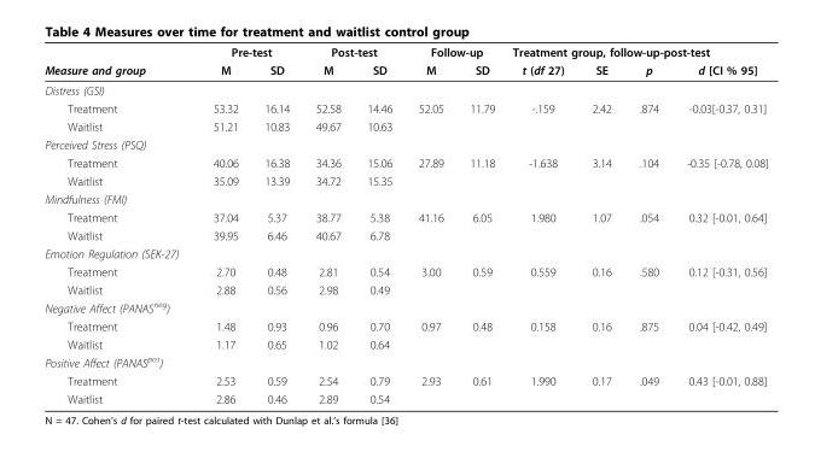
<table><thead><tr><td rowspan="2">Measure and group</td><td colspan="2">Pre-test</td><td colspan="2">Post-test</td><td colspan="2">Follow-up</td><td colspan="4">Treatment group, follow-up-post-test</td></tr><tr><td>M</td><td>SD</td><td>M</td><td>SD</td><td>M</td><td>SD</td><td>t (df 27)</td><td>SE</td><td>p</td><td>d [CI % 95]</td></tr></thead><tbody><tr><td colspan="11">Distress (GSI)</td></tr><tr><td>Treatment</td><td>53.32</td><td>16.14</td><td>52.58</td><td>14.46</td><td>52.05</td><td>11.79</td><td>-.159</td><td>2.42</td><td>.874</td><td>-0.03[-0.37, 0.31]</td></tr><tr><td>Waitlist</td><td>51.21</td><td>10.83</td><td>49.67</td><td>10.63</td><td></td><td></td><td></td><td></td><td></td><td></td></tr><tr><td colspan="11">Perceived Stress (PSQ)</td></tr><tr><td>Treatment</td><td>40.06</td><td>16.38</td><td>34.36</td><td>15.06</td><td>27.89</td><td>11.18</td><td>-1.638</td><td>3.14</td><td>.104</td><td>-0.35 [-0.78, 0.08]</td></tr><tr><td>Waitlist</td><td>35.09</td><td>13.39</td><td>34.72</td><td>15.35</td><td></td><td></td><td></td><td></td><td></td><td></td></tr><tr><td colspan="11">Mindfulness (FMI)</td></tr><tr><td>Treatment</td><td>37.04</td><td>5.37</td><td>38.77</td><td>5.38</td><td>41.16</td><td>6.05</td><td>1.980</td><td>1.07</td><td>.054</td><td>0.32 [-0.01, 0.64]</td></tr><tr><td>Waitlist</td><td>39.95</td><td>6.46</td><td>40.67</td><td>6.78</td><td></td><td></td><td></td><td></td><td></td><td></td></tr><tr><td colspan="11">Emotion Regulation (SEK-27)</td></tr><tr><td>Treatment</td><td>2.70</td><td>0.48</td><td>2.81</td><td>0.54</td><td>3.00</td><td>0.59</td><td>0.559</td><td>0.16</td><td>.580</td><td>0.12 [-0.31, 0.56]</td></tr><tr><td>Waitlist</td><td>2.88</td><td>0.56</td><td>2.98</td><td>0.49</td><td></td><td></td><td></td><td></td><td></td><td></td></tr><tr><td colspan="11">Negative Affect (PANAS<sup>neg</sup>)</td></tr><tr><td>Treatment</td><td>1.48</td><td>0.93</td><td>0.96</td><td>0.70</td><td>0.97</td><td>0.48</td><td>0.158</td><td>0.16</td><td>.875</td><td>0.04 [-0.42, 0.49]</td></tr><tr><td>Waitlist</td><td>1.17</td><td>0.65</td><td>1.02</td><td>0.64</td><td></td><td></td><td></td><td></td><td></td><td></td></tr><tr><td colspan="11">Positive Affect (PANAS<sup>pos</sup>)</td></tr><tr><td>Treatment</td><td>2.53</td><td>0.59</td><td>2.54</td><td>0.79</td><td>2.93</td><td>0.61</td><td>1.990</td><td>0.17</td><td>.049</td><td>0.43 [-0.01, 0.88]</td></tr><tr><td>Waitlist</td><td>2.86</td><td>0.46</td><td>2.89</td><td>0.54</td><td></td><td></td><td></td><td></td><td></td><td></td></tr></tbody></table>